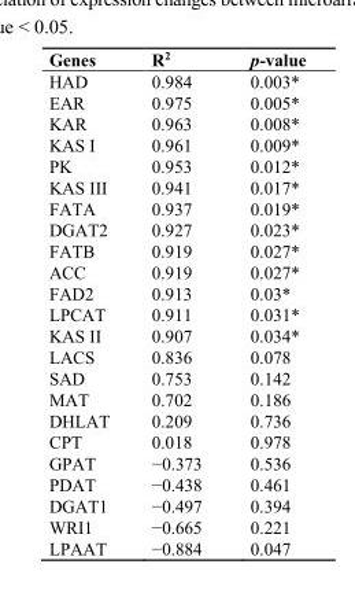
<table><thead><tr><td>Genes</td><td>R<sup>2</sup></td><td>p-value</td></tr></thead><tbody><tr><td>HAD</td><td>0.984</td><td>0.003*</td></tr><tr><td>EAR</td><td>0.975</td><td>0.005*</td></tr><tr><td>KAR</td><td>0.963</td><td>0.008*</td></tr><tr><td>KAS I</td><td>0.961</td><td>0.009*</td></tr><tr><td>PK</td><td>0.953</td><td>0.012*</td></tr><tr><td>KAS III</td><td>0.941</td><td>0.017*</td></tr><tr><td>FATA</td><td>0.937</td><td>0.019*</td></tr><tr><td>DGAT2</td><td>0.927</td><td>0.023*</td></tr><tr><td>FATB</td><td>0.919</td><td>0.027*</td></tr><tr><td>ACC</td><td>0.919</td><td>0.027*</td></tr><tr><td>FAD2</td><td>0.913</td><td>0.03*</td></tr><tr><td>LPCAT</td><td>0.911</td><td>0.031*</td></tr><tr><td>KAS II</td><td>0.907</td><td>0.034*</td></tr><tr><td>LACS</td><td>0.836</td><td>0.078</td></tr><tr><td>SAD</td><td>0.753</td><td>0.142</td></tr><tr><td>MAT</td><td>0.702</td><td>0.186</td></tr><tr><td>DHLAT</td><td>0.209</td><td>0.736</td></tr><tr><td>CPT</td><td>0.018</td><td>0.978</td></tr><tr><td>GPAT</td><td>−0.373</td><td>0.536</td></tr><tr><td>PDAT</td><td>−0.438</td><td>0.461</td></tr><tr><td>DGAT1</td><td>−0.497</td><td>0.394</td></tr><tr><td>WRI1</td><td>−0.665</td><td>0.221</td></tr><tr><td>LPAAT</td><td>−0.884</td><td>0.047</td></tr></tbody></table>